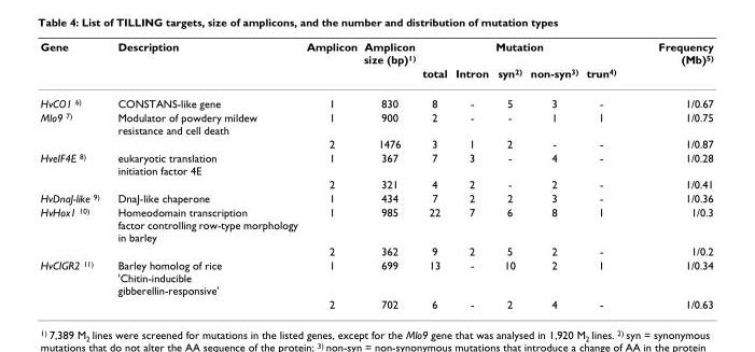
<table><thead><tr><td rowspan="2">Gene</td><td rowspan="2">Description</td><td rowspan="2">Amplicon</td><td rowspan="2">Amplicon size (bp)<sup>1)</sup></td><td colspan="5">Mutation</td><td rowspan="2">Frequency (Mb)<sup>5)</sup></td></tr><tr><td>total</td><td>Intron</td><td>syn<sup>2)</sup></td><td>non-syn<sup>3)</sup></td><td>trun<sup>4)</sup></td></tr></thead><tbody><tr><td>HvCO1 <sup>6)</sup></td><td>CONSTANS-like gene</td><td>1</td><td>830</td><td>8</td><td>-</td><td>5</td><td>3</td><td>-</td><td>1/0.67</td></tr><tr><td rowspan="2">Mlo9 <sup>7)</sup></td><td>Modulator of powdery mildew resistance and cell death</td><td>1</td><td>900</td><td>2</td><td>-</td><td>-</td><td>1</td><td>1</td><td>1/0.75</td></tr><tr><td></td><td>2</td><td>1476</td><td>3</td><td>1</td><td>2</td><td>-</td><td>-</td><td>1/0.87</td></tr><tr><td rowspan="2">HveIF4E <sup>8)</sup></td><td>eukaryotic translation initiation factor 4E</td><td>1</td><td>367</td><td>7</td><td>3</td><td>-</td><td>4</td><td>-</td><td>1/0.28</td></tr><tr><td></td><td>2</td><td>321</td><td>4</td><td>2</td><td>-</td><td>2</td><td>-</td><td>1/0.41</td></tr><tr><td>HvDnaJ-like <sup>9)</sup></td><td>DnaJ-like chaperone</td><td>1</td><td>434</td><td>7</td><td>2</td><td>2</td><td>3</td><td>-</td><td>1/0.36</td></tr><tr><td rowspan="2">HvHox1 <sup>10)</sup></td><td>Homeodomain transcription factor controlling row-type morphology in barley</td><td>1</td><td>985</td><td>22</td><td>7</td><td>6</td><td>8</td><td>1</td><td>1/0.3</td></tr><tr><td></td><td>2</td><td>362</td><td>9</td><td>2</td><td>5</td><td>2</td><td>-</td><td>1/0.2</td></tr><tr><td rowspan="2">HvCIGR2 <sup>11)</sup></td><td>Barley homolog of rice &#x27;Chitin-inducible gibberellin-responsive&#x27;</td><td>1</td><td>699</td><td>13</td><td>-</td><td>10</td><td>2</td><td>1</td><td>1/0.34</td></tr><tr><td></td><td>2</td><td>702</td><td>6</td><td>-</td><td>2</td><td>4</td><td>-</td><td>1/0.63</td></tr></tbody></table>